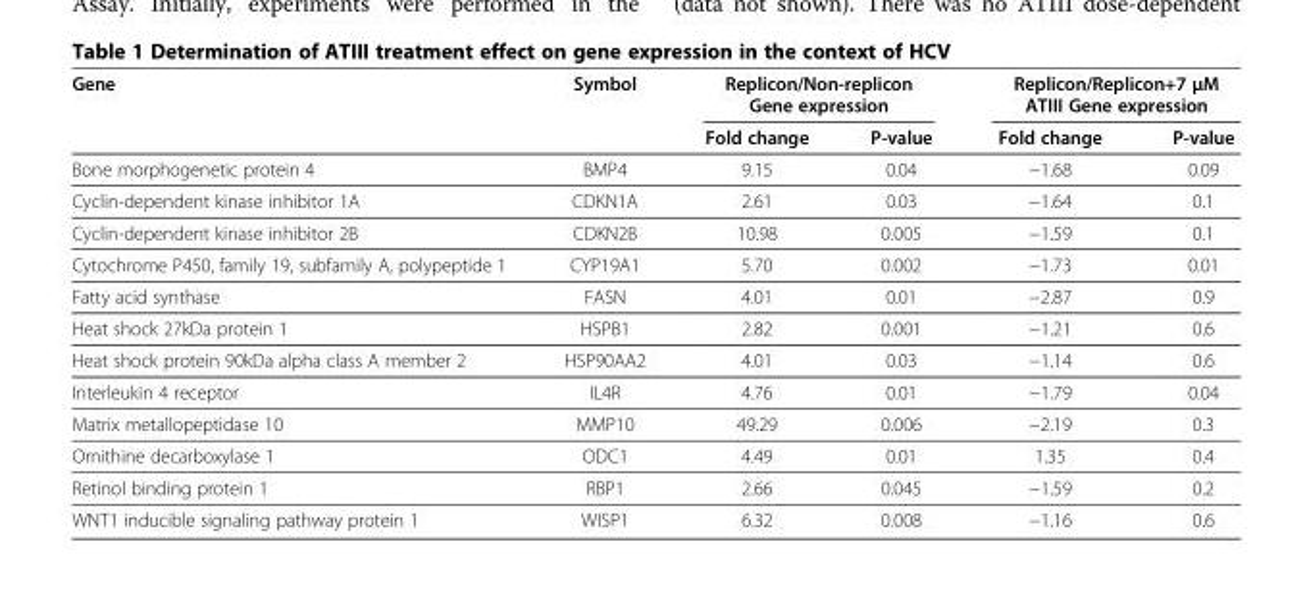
<table><thead><tr><td rowspan="2">Gene</td><td rowspan="2">Symbol</td><td colspan="2">Replicon/Non-replicon Gene expression</td><td colspan="2">Replicon/Replicon+7 μM ATIII Gene expression</td></tr><tr><td>Fold change</td><td>P-value</td><td>Fold change</td><td>P-value</td></tr></thead><tbody><tr><td>Bone morphogenetic protein 4</td><td>BMP4</td><td>9.15</td><td>0.04</td><td>−1.68</td><td>0.09</td></tr><tr><td>Cyclin-dependent kinase inhibitor 1A</td><td>CDKN1A</td><td>2.61</td><td>0.03</td><td>−1.64</td><td>0.1</td></tr><tr><td>Cyclin-dependent kinase inhibitor 2B</td><td>CDKN2B</td><td>10.98</td><td>0.005</td><td>−1.59</td><td>0.1</td></tr><tr><td>Cytochrome P450, family 19, subfamily A, polypeptide 1</td><td>CYP19A1</td><td>5.70</td><td>0.002</td><td>−1.73</td><td>0.01</td></tr><tr><td>Fatty acid synthase</td><td>FASN</td><td>4.01</td><td>0.01</td><td>−2.87</td><td>0.9</td></tr><tr><td>Heat shock 27kDa protein 1</td><td>HSPB1</td><td>2.82</td><td>0.001</td><td>−1.21</td><td>0.6</td></tr><tr><td>Heat shock protein 90kDa alpha class A member 2</td><td>HSP90AA2</td><td>4.01</td><td>0.03</td><td>−1.14</td><td>0.6</td></tr><tr><td>Interleukin 4 receptor</td><td>IL4R</td><td>4.76</td><td>0.01</td><td>−1.79</td><td>0.04</td></tr><tr><td>Matrix metallopeptidase 10</td><td>MMP10</td><td>49.29</td><td>0.006</td><td>−2.19</td><td>0.3</td></tr><tr><td>Ornithine decarboxylase 1</td><td>ODC1</td><td>4.49</td><td>0.01</td><td>1.35</td><td>0.4</td></tr><tr><td>Retinol binding protein 1</td><td>RBP1</td><td>2.66</td><td>0.045</td><td>−1.59</td><td>0.2</td></tr><tr><td>WNT1 inducible signaling pathway protein 1</td><td>WISP1</td><td>6.32</td><td>0.008</td><td>−1.16</td><td>0.6</td></tr></tbody></table>